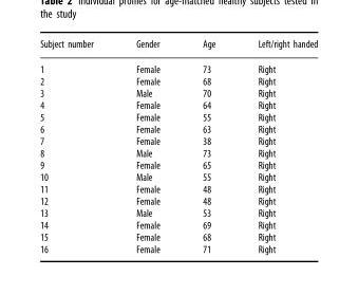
<table><thead><tr><td>Subject number</td><td>Gender</td><td>Age</td><td>Left/right handed</td></tr></thead><tbody><tr><td>1</td><td>Female</td><td>73</td><td>Right</td></tr><tr><td>2</td><td>Female</td><td>68</td><td>Right</td></tr><tr><td>3</td><td>Male</td><td>70</td><td>Right</td></tr><tr><td>4</td><td>Female</td><td>64</td><td>Right</td></tr><tr><td>5</td><td>Female</td><td>55</td><td>Right</td></tr><tr><td>6</td><td>Female</td><td>63</td><td>Right</td></tr><tr><td>7</td><td>Female</td><td>38</td><td>Right</td></tr><tr><td>8</td><td>Male</td><td>73</td><td>Right</td></tr><tr><td>9</td><td>Female</td><td>65</td><td>Right</td></tr><tr><td>10</td><td>Male</td><td>55</td><td>Right</td></tr><tr><td>11</td><td>Female</td><td>48</td><td>Right</td></tr><tr><td>12</td><td>Female</td><td>48</td><td>Right</td></tr><tr><td>13</td><td>Male</td><td>53</td><td>Right</td></tr><tr><td>14</td><td>Female</td><td>69</td><td>Right</td></tr><tr><td>15</td><td>Female</td><td>68</td><td>Right</td></tr><tr><td>16</td><td>Female</td><td>71</td><td>Right</td></tr></tbody></table>